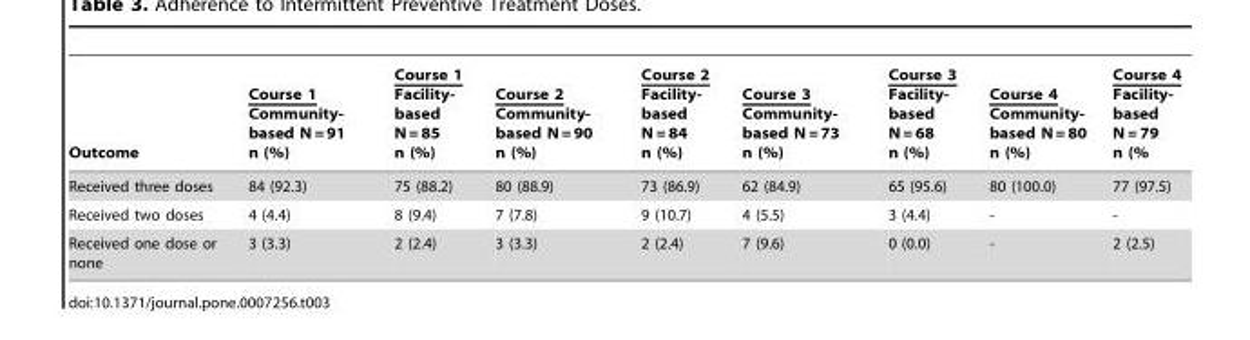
<table><thead><tr><td>Outcome</td><td>Course 1 Community- based N = 91 n (%)</td><td>Course 1 Facility- based N = 85 n (%)</td><td>Course 2 Community- based N = 90 n (%)</td><td>Course 2 Facility- based N = 84 n (%)</td><td>Course 3 Community- based N = 73 n (%)</td><td>Course 3 Facility- based N = 68 n (%)</td><td>Course 4 Community- based N = 80 n (%)</td><td>Course 4 Facility- based N = 79 n (%</td></tr></thead><tbody><tr><td>Received three doses</td><td>84 (92.3)</td><td>75 (88.2)</td><td>80 (88.9)</td><td>73 (86.9)</td><td>62 (84.9)</td><td>65 (95.6)</td><td>80 (100.0)</td><td>77 (97.5)</td></tr><tr><td>Received two doses</td><td>4 (4.4)</td><td>8 (9.4)</td><td>7 (7.8)</td><td>9 (10.7)</td><td>4 (5.5)</td><td>3 (4.4)</td><td>-</td><td>-</td></tr><tr><td>Received one dose or none</td><td>3 (3.3)</td><td>2 (2.4)</td><td>3 (3.3)</td><td>2 (2.4)</td><td>7 (9.6)</td><td>0 (0.0)</td><td>-</td><td>2 (2.5)</td></tr></tbody></table>